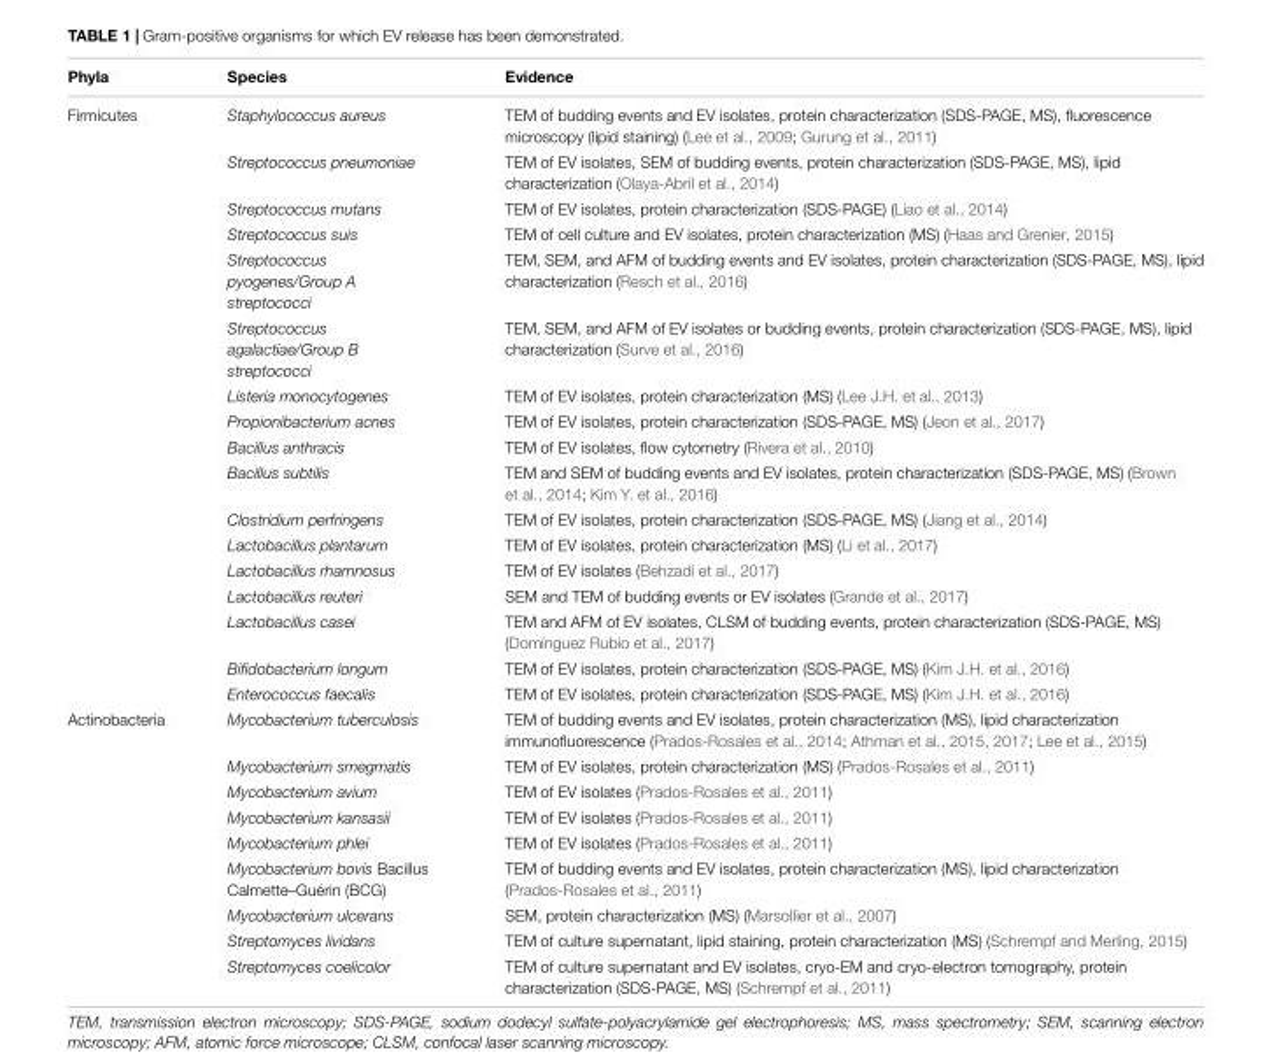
<table><thead><tr><td>Phyla</td><td>Species</td><td>Evidence</td></tr></thead><tbody><tr><td rowspan="17">Firmicutes</td><td>Staphylococcus aureus</td><td>TEM of budding events and EV isolates, protein characterization (SDS-PAGE, MS), fluorescence microscopy (lipid staining) (Lee et al., 2009; Gurung et al., 2011)</td></tr><tr><td>Streptococcus pneumoniae</td><td>TEM of EV isolates, SEM of budding events, protein characterization (SDS-PAGE, MS), lipid characterization (Olaya-Abril et al., 2014)</td></tr><tr><td>Streptococcus mutans</td><td>TEM of EV isolates, protein characterization (SDS-PAGE) (Liao et al., 2014)</td></tr><tr><td>Streptococcus suis</td><td>TEM of cell culture and EV isolates, protein characterization (MS) (Haas and Grenier, 2015)</td></tr><tr><td>Streptococcus pyogenes/Group A streptococci</td><td>TEM, SEM, and AFM of budding events and EV isolates, protein characterization (SDS-PAGE, MS), lipid characterization (Resch et al., 2016)</td></tr><tr><td>Streptococcus agalactiae/Group B streptococci</td><td>TEM, SEM, and AFM of EV isolates or budding events, protein characterization (SDS-PAGE, MS), lipid characterization (Surve et al., 2016)</td></tr><tr><td>Listeria monocytogenes</td><td>TEM of EV isolates, protein characterization (MS) (Lee J.H. et al., 2013)</td></tr><tr><td>Propionibacterium acnes</td><td>TEM of EV isolates, protein characterization (SDS-PAGE, MS) (Jeon et al., 2017)</td></tr><tr><td>Bacillus anthracis</td><td>TEM of EV isolates, flow cytometry (Rivera et al., 2010)</td></tr><tr><td>Bacillus subtilis</td><td>TEM and SEM of budding events and EV isolates, protein characterization (SDS-PAGE, MS) (Brown et al., 2014; Kim Y. et al., 2016)</td></tr><tr><td>Clostridium perfringens</td><td>TEM of EV isolates, protein characterization (SDS-PAGE, MS) (Jiang et al., 2014)</td></tr><tr><td>Lactobacillus plantarum</td><td>TEM of EV isolates, protein characterization (MS) (Li et al., 2017)</td></tr><tr><td>Lactobacillus rhamnosus</td><td>TEM of EV isolates (Behzadi et al., 2017)</td></tr><tr><td>Lactobacillus reuteri</td><td>SEM and TEM of budding events or EV isolates (Grande et al., 2017)</td></tr><tr><td>Lactobacillus casei</td><td>TEM and AFM of EV isolates, CLSM of budding events, protein characterization (SDS-PAGE, MS) (Domínguez Rubio et al., 2017)</td></tr><tr><td>Bifidobacterium longum</td><td>TEM of EV isolates, protein characterization (SDS-PAGE, MS) (Kim J.H. et al., 2016)</td></tr><tr><td>Enterococcus faecalis</td><td>TEM of EV isolates, protein characterization (SDS-PAGE, MS) (Kim J.H. et al., 2016)</td></tr><tr><td rowspan="9">Actinobacteria</td><td>Mycobacterium tuberculosis</td><td>TEM of budding events and EV isolates, protein characterization (MS), lipid characterization immunofluorescence (Prados-Rosales et al., 2014; Athman et al., 2015, 2017; Lee et al., 2015)</td></tr><tr><td>Mycobacterium smegmatis</td><td>TEM of EV isolates, protein characterization (MS) (Prados-Rosales et al., 2011)</td></tr><tr><td>Mycobacterium avium</td><td>TEM of EV isolates (Prados-Rosales et al., 2011)</td></tr><tr><td>Mycobacterium kansasii</td><td>TEM of EV isolates (Prados-Rosales et al., 2011)</td></tr><tr><td>Mycobacterium phlei</td><td>TEM of EV isolates (Prados-Rosales et al., 2011)</td></tr><tr><td>Mycobacterium bovis Bacillus Calmette–Guérin (BCG)</td><td>TEM of budding events and EV isolates, protein characterization (MS), lipid characterization (Prados-Rosales et al., 2011)</td></tr><tr><td>Mycobacterium ulcerans</td><td>SEM, protein characterization (MS) (Marsollier et al., 2007)</td></tr><tr><td>Streptomyces lividans</td><td>TEM of culture supernatant, lipid staining, protein characterization (MS) (Schrempf and Merling, 2015)</td></tr><tr><td>Streptomyces coelicolor</td><td>TEM of culture supernatant and EV isolates, cryo-EM and cryo-electron tomography, protein characterization (SDS-PAGE, MS) (Schrempf et al., 2011)</td></tr></tbody></table>